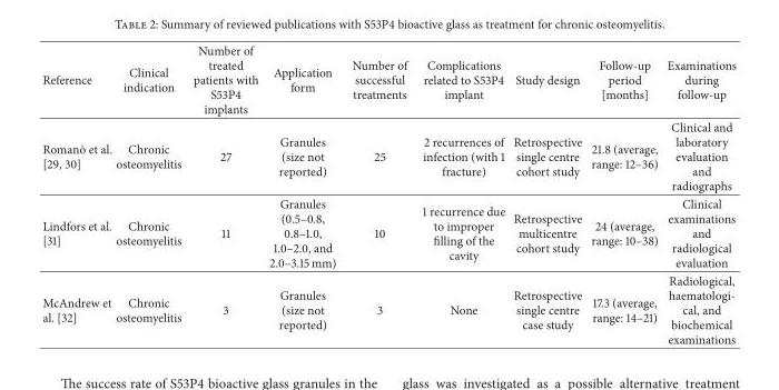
<table><thead><tr><td>Reference</td><td>Clinical indication</td><td>Number of treated patients with S53P4 implants</td><td>Application form</td><td>Number of successful treatments</td><td>Complications related to S53P4 implant</td><td>Study design</td><td>Follow-up period [months]</td><td>Examinations during follow-up</td></tr></thead><tbody><tr><td>Roman`o et al. [29, 30]</td><td>Chronic osteomyelitis</td><td>27</td><td>Granules (size not reported)</td><td>25</td><td>2 recurrences of infection (with 1 fracture)</td><td>Retrospective single centre cohort study</td><td>21.8 (average, range: 12–36)</td><td>Clinical and laboratory evaluation and radiographs</td></tr><tr><td>Lindfors et al. [31]</td><td>Chronic osteomyelitis</td><td>11</td><td>Granules (0.5–0.8, 0.8–1.0, 1.0–2.0, and 2.0–3.15 mm)</td><td>10</td><td>1 recurrence due to improper filling of the cavity</td><td>Retrospective multicentre cohort study</td><td>24 (average, range: 10–38)</td><td>Clinical examinations and radiological evaluation</td></tr><tr><td>McAndrew et al. [32]</td><td>Chronic osteomyelitis</td><td>3</td><td>Granules (size not reported)</td><td>3</td><td>None</td><td>Retrospective single centre case study</td><td>17.3 (average, range: 14–21)</td><td>Radiological, haematologi- cal, and biochemical examinations</td></tr></tbody></table>